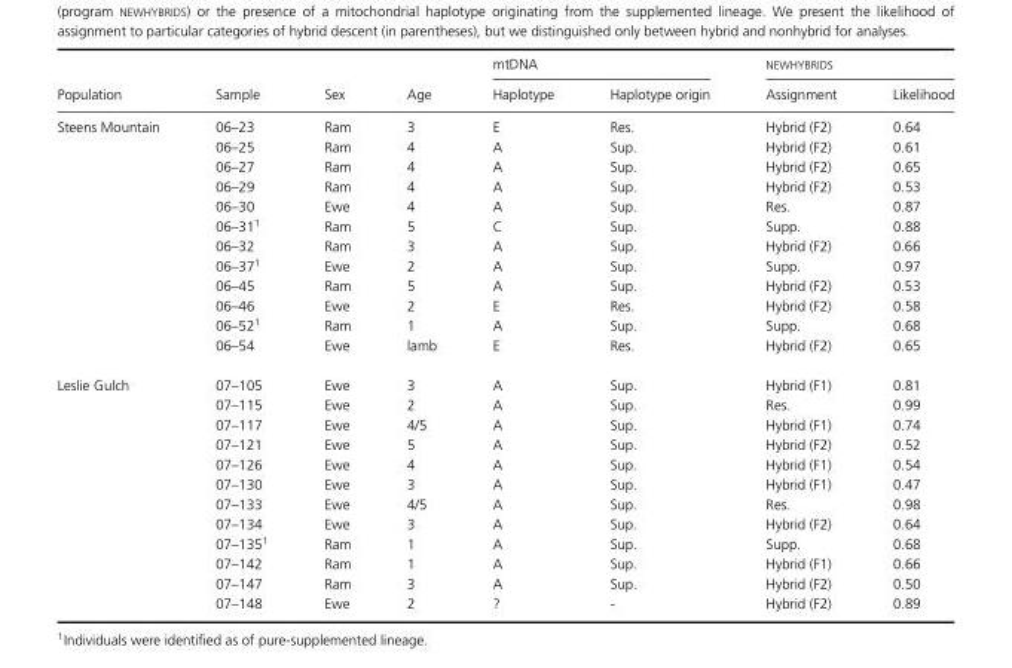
<table><thead><tr><td rowspan="2">Population</td><td rowspan="2">Sample</td><td rowspan="2">Sex</td><td rowspan="2">Age</td><td colspan="2">mtDNA</td><td colspan="2">NEWHYBRIDS</td></tr><tr><td>Haplotype</td><td>Haplotype origin</td><td>Assignment</td><td>Likelihood</td></tr></thead><tbody><tr><td rowspan="12">Steens Mountain</td><td>06–23</td><td>Ram</td><td>3</td><td>E</td><td>Res.</td><td>Hybrid (F2)</td><td>0.64</td></tr><tr><td>06–25</td><td>Ram</td><td>4</td><td>A</td><td>Sup.</td><td>Hybrid (F2)</td><td>0.61</td></tr><tr><td>06–27</td><td>Ram</td><td>4</td><td>A</td><td>Sup.</td><td>Hybrid (F2)</td><td>0.65</td></tr><tr><td>06–29</td><td>Ram</td><td>4</td><td>A</td><td>Sup.</td><td>Hybrid (F2)</td><td>0.53</td></tr><tr><td>06–30</td><td>Ewe</td><td>4</td><td>A</td><td>Sup.</td><td>Res.</td><td>0.87</td></tr><tr><td>06–31<sup>1</sup></td><td>Ram</td><td>5</td><td>C</td><td>Sup.</td><td>Supp.</td><td>0.88</td></tr><tr><td>06–32</td><td>Ram</td><td>3</td><td>A</td><td>Sup.</td><td>Hybrid (F2)</td><td>0.66</td></tr><tr><td>06–37<sup>1</sup></td><td>Ewe</td><td>2</td><td>A</td><td>Sup.</td><td>Supp.</td><td>0.97</td></tr><tr><td>06–45</td><td>Ram</td><td>5</td><td>A</td><td>Sup.</td><td>Hybrid (F2)</td><td>0.53</td></tr><tr><td>06–46</td><td>Ewe</td><td>2</td><td>E</td><td>Res.</td><td>Hybrid (F2)</td><td>0.58</td></tr><tr><td>06–52<sup>1</sup></td><td>Ram</td><td>1</td><td>A</td><td>Sup.</td><td>Supp.</td><td>0.68</td></tr><tr><td>06–54</td><td>Ewe</td><td>lamb</td><td>E</td><td>Res.</td><td>Hybrid (F2)</td><td>0.65</td></tr><tr><td rowspan="12">Leslie Gulch</td><td>07–105</td><td>Ewe</td><td>3</td><td>A</td><td>Sup.</td><td>Hybrid (F1)</td><td>0.81</td></tr><tr><td>07–115</td><td>Ewe</td><td>2</td><td>A</td><td>Sup.</td><td>Res.</td><td>0.99</td></tr><tr><td>07–117</td><td>Ewe</td><td>4/5</td><td>A</td><td>Sup.</td><td>Hybrid (F1)</td><td>0.74</td></tr><tr><td>07–121</td><td>Ewe</td><td>5</td><td>A</td><td>Sup.</td><td>Hybrid (F2)</td><td>0.52</td></tr><tr><td>07–126</td><td>Ewe</td><td>4</td><td>A</td><td>Sup.</td><td>Hybrid (F1)</td><td>0.54</td></tr><tr><td>07–130</td><td>Ewe</td><td>3</td><td>A</td><td>Sup.</td><td>Hybrid (F1)</td><td>0.47</td></tr><tr><td>07–133</td><td>Ewe</td><td>4/5</td><td>A</td><td>Sup.</td><td>Res.</td><td>0.98</td></tr><tr><td>07–134</td><td>Ewe</td><td>3</td><td>A</td><td>Sup.</td><td>Hybrid (F2)</td><td>0.64</td></tr><tr><td>07–135<sup>1</sup></td><td>Ram</td><td>1</td><td>A</td><td>Sup.</td><td>Supp.</td><td>0.68</td></tr><tr><td>07–142</td><td>Ram</td><td>1</td><td>A</td><td>Sup.</td><td>Hybrid (F1)</td><td>0.66</td></tr><tr><td>07–147</td><td>Ram</td><td>3</td><td>A</td><td>Sup.</td><td>Hybrid (F2)</td><td>0.50</td></tr><tr><td>07–148</td><td>Ewe</td><td>2</td><td>?</td><td>-</td><td>Hybrid (F2)</td><td>0.89</td></tr></tbody></table>